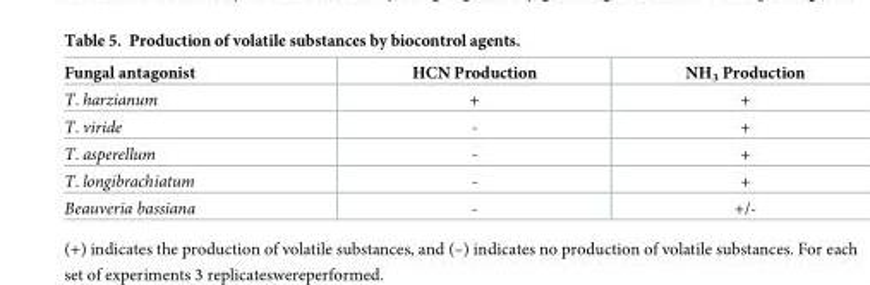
<table><thead><tr><td>Fungal antagonist</td><td>HCN Production</td><td>NH<sub>3</sub> Production</td></tr></thead><tbody><tr><td>T. harzianum</td><td>+</td><td>+</td></tr><tr><td>T. viride</td><td>-</td><td>+</td></tr><tr><td>T. asperellum</td><td>-</td><td>+</td></tr><tr><td>T. longibrachiatum</td><td>-</td><td>+</td></tr><tr><td>Beauveria bassiana</td><td>-</td><td>+/-</td></tr></tbody></table>